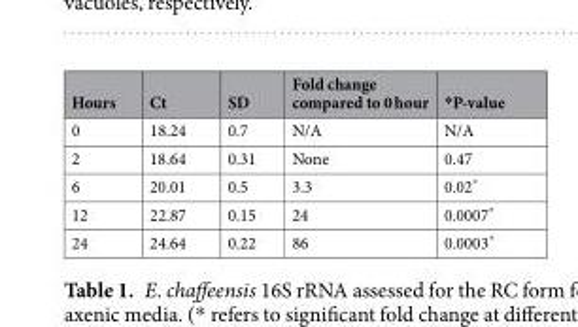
<table><thead><tr><td>Hours</td><td>Ct</td><td>SD</td><td>Fold change compared to 0 hour</td><td>*P-value</td></tr></thead><tbody><tr><td>0</td><td>18.24</td><td>0.7</td><td>N/A</td><td>N/A</td></tr><tr><td>2</td><td>18.64</td><td>0.31</td><td>None</td><td>0.47</td></tr><tr><td>6</td><td>20.01</td><td>0.5</td><td>3.3</td><td>0.02*</td></tr><tr><td>12</td><td>22.87</td><td>0.15</td><td>24</td><td>0.0007*</td></tr><tr><td>24</td><td>24.64</td><td>0.22</td><td>86</td><td>0.0003*</td></tr></tbody></table>